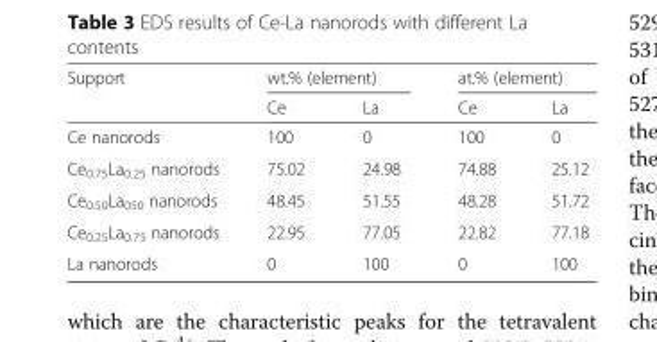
<table><thead><tr><td rowspan="2">Support</td><td colspan="2">wt.% (element)</td><td colspan="2">at.% (element)</td></tr><tr><td>Ce</td><td>La</td><td>Ce</td><td>La</td></tr></thead><tbody><tr><td>Ce nanorods</td><td>100</td><td>0</td><td>100</td><td>0</td></tr><tr><td>Ce<sub>0.75</sub>La<sub>0.25</sub> nanorods</td><td>75.02</td><td>24.98</td><td>74.88</td><td>25.12</td></tr><tr><td>Ce<sub>0.50</sub>La<sub>050</sub> nanorods</td><td>48.45</td><td>51.55</td><td>48.28</td><td>51.72</td></tr><tr><td>Ce<sub>0.25</sub>La<sub>0.75</sub> nanorods</td><td>22.95</td><td>77.05</td><td>22.82</td><td>77.18</td></tr><tr><td>La nanorods</td><td>0</td><td>100</td><td>0</td><td>100</td></tr></tbody></table>